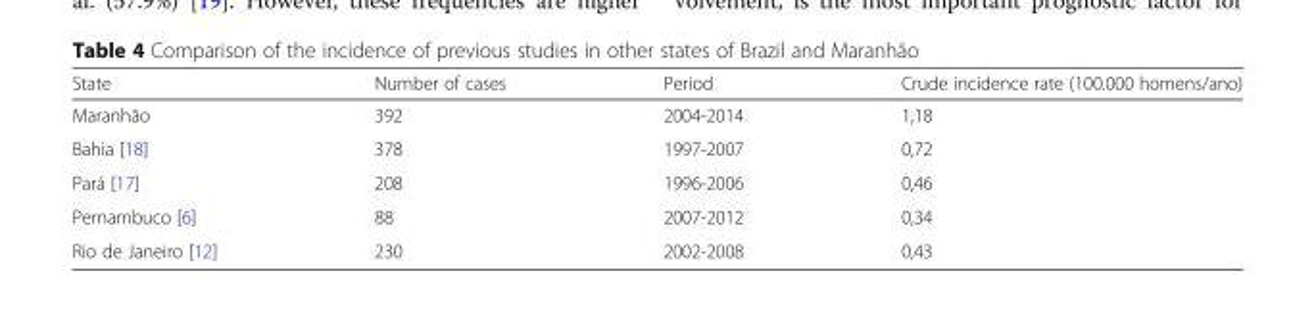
<table><thead><tr><td>State</td><td>Number of cases</td><td>Period</td><td>Crude incidence rate (100.000 homens/ano)</td></tr></thead><tbody><tr><td>Maranhão</td><td>392</td><td>2004-2014</td><td>1,18</td></tr><tr><td>Bahia [18]</td><td>378</td><td>1997-2007</td><td>0,72</td></tr><tr><td>Pará [17]</td><td>208</td><td>1996-2006</td><td>0,46</td></tr><tr><td>Pernambuco [6]</td><td>88</td><td>2007-2012</td><td>0,34</td></tr><tr><td>Rio de Janeiro [12]</td><td>230</td><td>2002-2008</td><td>0,43</td></tr></tbody></table>